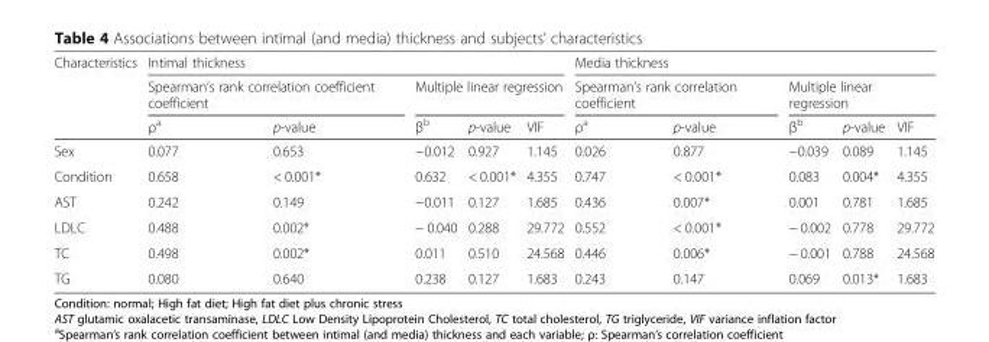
<table><thead><tr><td rowspan="3">Characteristics</td><td colspan="5">Intimal thickness</td><td colspan="5">Media thickness</td></tr><tr><td colspan="2">Spearman’s rank correlation coefficient coefficient</td><td colspan="3">Multiple linear regression</td><td colspan="2">Spearman’s rank correlation coefficient</td><td colspan="3">Multiple linear regression</td></tr><tr><td>ρ<sup>a</sup></td><td>p-value</td><td>β<sup>b</sup></td><td>p-value</td><td>VIF</td><td>ρ<sup>a</sup></td><td>p-value</td><td>β<sup>b</sup></td><td>p-value</td><td>VIF</td></tr></thead><tbody><tr><td>Sex</td><td>0.077</td><td>0.653</td><td>−0.012</td><td>0.927</td><td>1.145</td><td>0.026</td><td>0.877</td><td>−0.039</td><td>0.089</td><td>1.145</td></tr><tr><td>Condition</td><td>0.658</td><td>&lt; 0.001*</td><td>0.632</td><td>&lt; 0.001*</td><td>4.355</td><td>0.747</td><td>&lt; 0.001*</td><td>0.083</td><td>0.004*</td><td>4.355</td></tr><tr><td>AST</td><td>0.242</td><td>0.149</td><td>−0.011</td><td>0.127</td><td>1.685</td><td>0.436</td><td>0.007*</td><td>0.001</td><td>0.781</td><td>1.685</td></tr><tr><td>LDLC</td><td>0.488</td><td>0.002*</td><td>− 0.040</td><td>0.288</td><td>29.772</td><td>0.552</td><td>&lt; 0.001*</td><td>− 0.002</td><td>0.778</td><td>29.772</td></tr><tr><td>TC</td><td>0.498</td><td>0.002*</td><td>0.011</td><td>0.510</td><td>24.568</td><td>0.446</td><td>0.006*</td><td>− 0.001</td><td>0.788</td><td>24.568</td></tr><tr><td>TG</td><td>0.080</td><td>0.640</td><td>0.238</td><td>0.127</td><td>1.683</td><td>0.243</td><td>0.147</td><td>0.069</td><td>0.013*</td><td>1.683</td></tr></tbody></table>